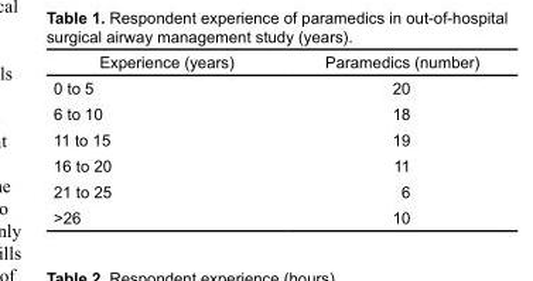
<table><thead><tr><td>Experience (years)</td><td>Paramedics (number)</td></tr></thead><tbody><tr><td>0 to 5</td><td>20</td></tr><tr><td>6 to 10</td><td>18</td></tr><tr><td>11 to 15</td><td>19</td></tr><tr><td>16 to 20</td><td>11</td></tr><tr><td>21 to 25</td><td>6</td></tr><tr><td>&gt;26</td><td>10</td></tr></tbody></table>